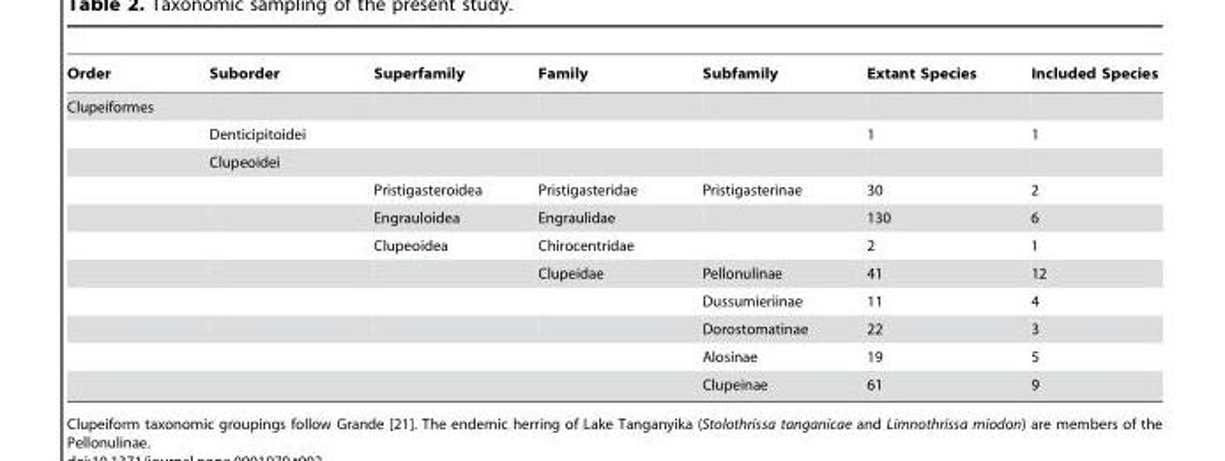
<table><thead><tr><td>Order</td><td>Suborder</td><td>Superfamily</td><td>Family</td><td>Subfamily</td><td>Extant Species</td><td>Included Species</td></tr></thead><tbody><tr><td colspan="7">Clupeiformes</td></tr><tr><td></td><td>Denticipitoidei</td><td></td><td></td><td></td><td>1</td><td>1</td></tr><tr><td></td><td>Clupeoidei</td><td></td><td></td><td></td><td></td><td></td></tr><tr><td></td><td></td><td>Pristigasteroidea</td><td>Pristigasteridae</td><td>Pristigasterinae</td><td>30</td><td>2</td></tr><tr><td></td><td></td><td>Engrauloidea</td><td>Engraulidae</td><td></td><td>130</td><td>6</td></tr><tr><td></td><td></td><td>Clupeoidea</td><td>Chirocentridae</td><td></td><td>2</td><td>1</td></tr><tr><td></td><td></td><td></td><td>Clupeidae</td><td>Pellonulinae</td><td>41</td><td>12</td></tr><tr><td></td><td></td><td></td><td></td><td>Dussumieriinae</td><td>11</td><td>4</td></tr><tr><td></td><td></td><td></td><td></td><td>Dorostomatinae</td><td>22</td><td>3</td></tr><tr><td></td><td></td><td></td><td></td><td>Alosinae</td><td>19</td><td>5</td></tr><tr><td></td><td></td><td></td><td></td><td>Clupeinae</td><td>61</td><td>9</td></tr></tbody></table>